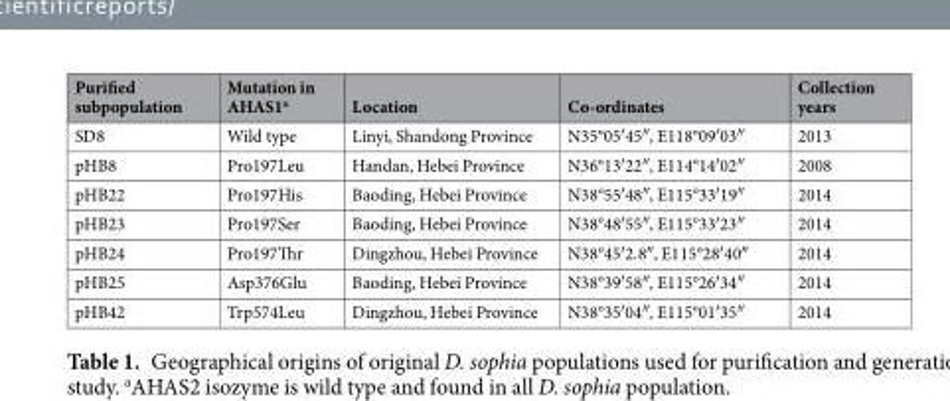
<table><thead><tr><td>Purified subpopulation</td><td>Mutation in AHAS1<sup>a</sup></td><td>Location</td><td>Co-ordinates</td><td>Collection years</td></tr></thead><tbody><tr><td>SD8</td><td>Wild type</td><td>Linyi, Shandong Province</td><td>N35°05′45″, E118°09′03″</td><td>2013</td></tr><tr><td>pHB8</td><td>Pro197Leu</td><td>Handan, Hebei Province</td><td>N36°13′22″, E114°14′02″</td><td>2008</td></tr><tr><td>pHB22</td><td>Pro197His</td><td>Baoding, Hebei Province</td><td>N38°55′48″, E115°33′19″</td><td>2014</td></tr><tr><td>pHB23</td><td>Pro197Ser</td><td>Baoding, Hebei Province</td><td>N38°48′55″, E115°33′23″</td><td>2014</td></tr><tr><td>pHB24</td><td>Pro197Thr</td><td>Dingzhou, Hebei Province</td><td>N38°45′2.8″, E115°28′40″</td><td>2014</td></tr><tr><td>pHB25</td><td>Asp376Glu</td><td>Baoding, Hebei Province</td><td>N38°39′58″, E115°26′34″</td><td>2014</td></tr><tr><td>pHB42</td><td>Trp574Leu</td><td>Dingzhou, Hebei Province</td><td>N38°35′04″, E115°01′35″</td><td>2014</td></tr></tbody></table>